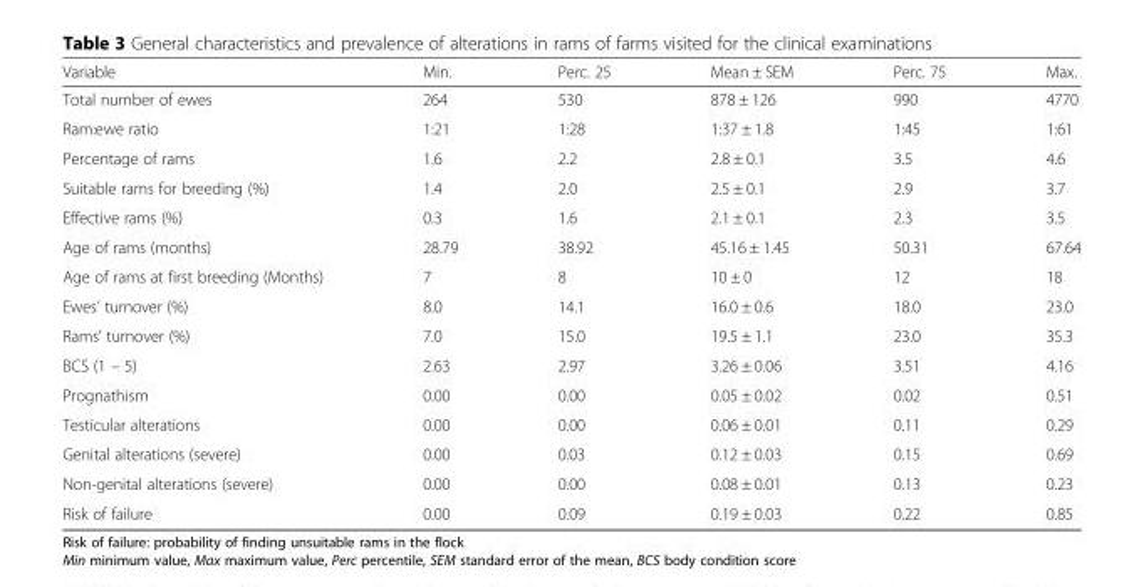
<table><thead><tr><td>Variable</td><td>Min.</td><td>Perc. 25</td><td>Mean ± SEM</td><td>Perc. 75</td><td>Max.</td></tr></thead><tbody><tr><td>Total number of ewes</td><td>264</td><td>530</td><td>878 ± 126</td><td>990</td><td>4770</td></tr><tr><td>Ram:ewe ratio</td><td>1:21</td><td>1:28</td><td>1:37 ± 1.8</td><td>1:45</td><td>1:61</td></tr><tr><td>Percentage of rams</td><td>1.6</td><td>2.2</td><td>2.8 ± 0.1</td><td>3.5</td><td>4.6</td></tr><tr><td>Suitable rams for breeding (%)</td><td>1.4</td><td>2.0</td><td>2.5 ± 0.1</td><td>2.9</td><td>3.7</td></tr><tr><td>Effective rams (%)</td><td>0.3</td><td>1.6</td><td>2.1 ± 0.1</td><td>2.3</td><td>3.5</td></tr><tr><td>Age of rams (months)</td><td>28.79</td><td>38.92</td><td>45.16 ± 1.45</td><td>50.31</td><td>67.64</td></tr><tr><td>Age of rams at first breeding (Months)</td><td>7</td><td>8</td><td>10 ± 0</td><td>12</td><td>18</td></tr><tr><td>Ewes’ turnover (%)</td><td>8.0</td><td>14.1</td><td>16.0 ± 0.6</td><td>18.0</td><td>23.0</td></tr><tr><td>Rams’ turnover (%)</td><td>7.0</td><td>15.0</td><td>19.5 ± 1.1</td><td>23.0</td><td>35.3</td></tr><tr><td>BCS (1 – 5)</td><td>2.63</td><td>2.97</td><td>3.26 ± 0.06</td><td>3.51</td><td>4.16</td></tr><tr><td>Prognathism</td><td>0.00</td><td>0.00</td><td>0.05 ± 0.02</td><td>0.02</td><td>0.51</td></tr><tr><td>Testicular alterations</td><td>0.00</td><td>0.00</td><td>0.06 ± 0.01</td><td>0.11</td><td>0.29</td></tr><tr><td>Genital alterations (severe)</td><td>0.00</td><td>0.03</td><td>0.12 ± 0.03</td><td>0.15</td><td>0.69</td></tr><tr><td>Non-genital alterations (severe)</td><td>0.00</td><td>0.00</td><td>0.08 ± 0.01</td><td>0.13</td><td>0.23</td></tr><tr><td>Risk of failure</td><td>0.00</td><td>0.09</td><td>0.19 ± 0.03</td><td>0.22</td><td>0.85</td></tr></tbody></table>